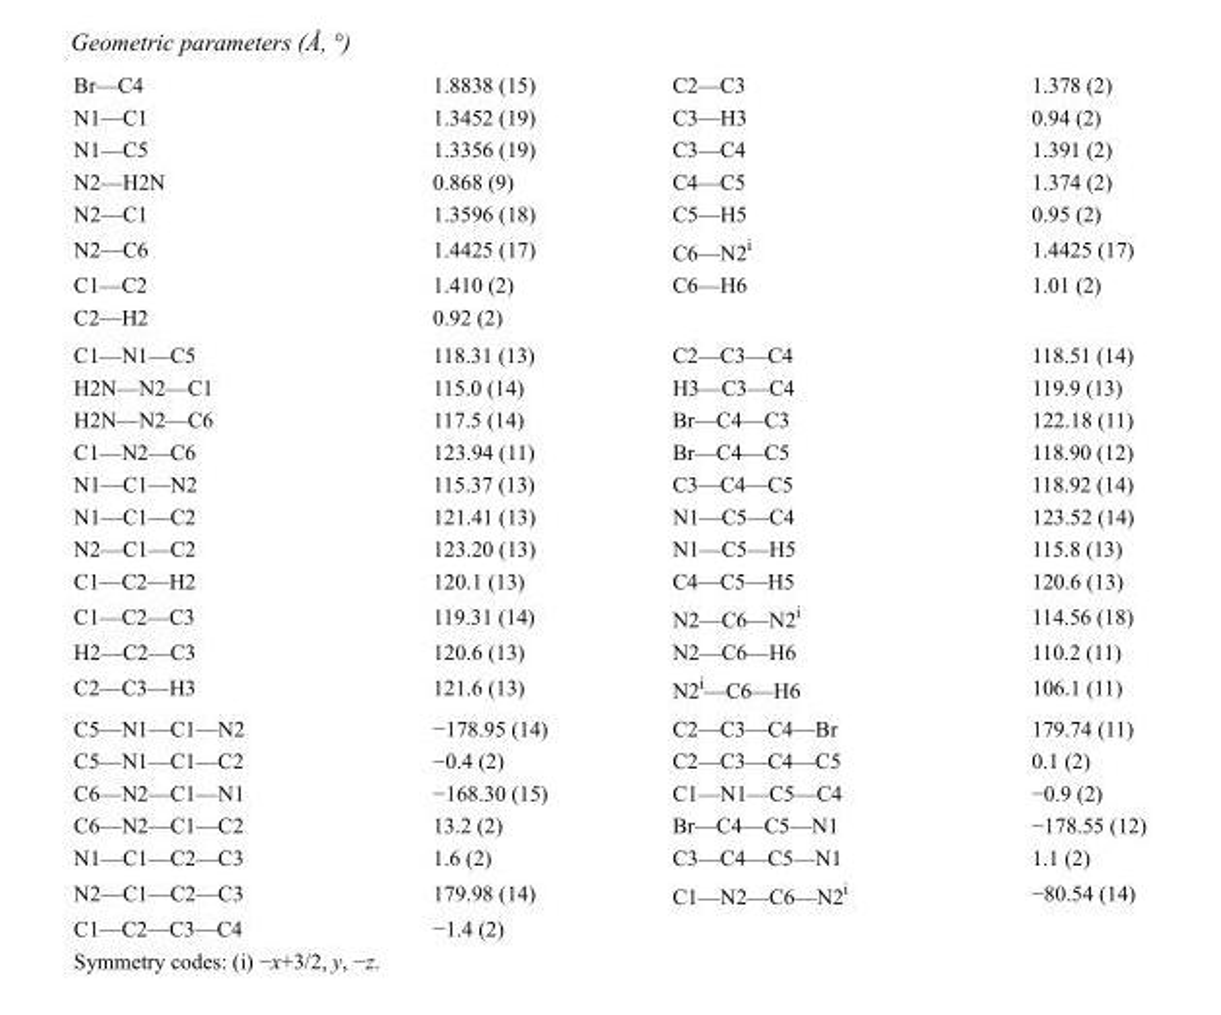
<table><tbody><tr><td>Br—C4</td><td>1.8838 (15)</td><td>C2—C3</td><td>1.378 (2)</td></tr><tr><td>N1—C1</td><td>1.3452 (19)</td><td>C3—H3</td><td>0.94 (2)</td></tr><tr><td>N1—C5</td><td>1.3356 (19)</td><td>C3—C4</td><td>1.391 (2)</td></tr><tr><td>N2—H2N</td><td>0.868 (9)</td><td>C4—C5</td><td>1.374 (2)</td></tr><tr><td>N2—C1</td><td>1.3596 (18)</td><td>C5—H5</td><td>0.95 (2)</td></tr><tr><td>N2—C6</td><td>1.4425 (17)</td><td>C6—N2<sup>i</sup></td><td>1.4425 (17)</td></tr><tr><td>C1—C2</td><td>1.410 (2)</td><td>C6—H6</td><td>1.01 (2)</td></tr><tr><td>C2—H2</td><td>0.92 (2)</td><td></td><td></td></tr><tr><td>C1—N1—C5</td><td>118.31 (13)</td><td>C2—C3—C4</td><td>118.51 (14)</td></tr><tr><td>H2N—N2—C1</td><td>115.0 (14)</td><td>H3—C3—C4</td><td>119.9 (13)</td></tr><tr><td>H2N—N2—C6</td><td>117.5 (14)</td><td>Br—C4—C3</td><td>122.18 (11)</td></tr><tr><td>C1—N2—C6</td><td>123.94 (11)</td><td>Br—C4—C5</td><td>118.90 (12)</td></tr><tr><td>N1—C1—N2</td><td>115.37 (13)</td><td>C3—C4—C5</td><td>118.92 (14)</td></tr><tr><td>N1—C1—C2</td><td>121.41 (13)</td><td>N1—C5—C4</td><td>123.52 (14)</td></tr><tr><td>N2—C1—C2</td><td>123.20 (13)</td><td>N1—C5—H5</td><td>115.8 (13)</td></tr><tr><td>C1—C2—H2</td><td>120.1 (13)</td><td>C4—C5—H5</td><td>120.6 (13)</td></tr><tr><td>C1—C2—C3</td><td>119.31 (14)</td><td>N2—C6—N2<sup>i</sup></td><td>114.56 (18)</td></tr><tr><td>H2—C2—C3</td><td>120.6 (13)</td><td>N2—C6—H6</td><td>110.2 (11)</td></tr><tr><td>C2—C3—H3</td><td>121.6 (13)</td><td>N2<sup>i</sup>—C6—H6</td><td>106.1 (11)</td></tr><tr><td>C5—N1—C1—N2</td><td>−178.95 (14)</td><td>C2—C3—C4—Br</td><td>179.74 (11)</td></tr><tr><td>C5—N1—C1—C2</td><td>−0.4 (2)</td><td>C2—C3—C4—C5</td><td>0.1 (2)</td></tr><tr><td>C6—N2—C1—N1</td><td>−168.30 (15)</td><td>C1—N1—C5—C4</td><td>−0.9 (2)</td></tr><tr><td>C6—N2—C1—C2</td><td>13.2 (2)</td><td>Br—C4—C5—N1</td><td>−178.55 (12)</td></tr><tr><td>N1—C1—C2—C3</td><td>1.6 (2)</td><td>C3—C4—C5—N1</td><td>1.1 (2)</td></tr><tr><td>N2—C1—C2—C3</td><td>179.98 (14)</td><td>C1—N2—C6—N2<sup>i</sup></td><td>−80.54 (14)</td></tr><tr><td>C1—C2—C3—C4</td><td>−1.4 (2)</td><td></td><td></td></tr></tbody></table>